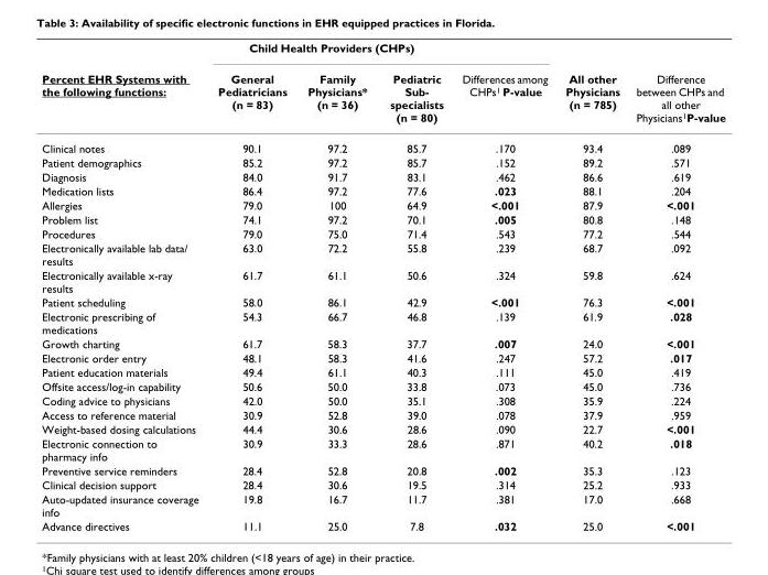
<table><thead><tr><td rowspan="2">Percent EHR Systems with the following functions:</td><td colspan="3">Child Health Providers (CHPs)</td><td rowspan="2">Differences among CHPs<sup>1</sup> P-value</td><td rowspan="2">All other Physicians (n = 785)</td><td rowspan="2">Difference between CHPs and all other Physicians<sup>1</sup>P-value</td></tr><tr><td>General Pediatricians (n = 83)</td><td>Family Physicians* (n = 36)</td><td>Pediatric Sub- specialists (n = 80)</td></tr></thead><tbody><tr><td>Clinical notes</td><td>90.1</td><td>97.2</td><td>85.7</td><td>.170</td><td>93.4</td><td>.089</td></tr><tr><td>Patient demographics</td><td>85.2</td><td>97.2</td><td>85.7</td><td>.152</td><td>89.2</td><td>.571</td></tr><tr><td>Diagnosis</td><td>84.0</td><td>91.7</td><td>83.1</td><td>.462</td><td>86.6</td><td>.619</td></tr><tr><td>Medication lists</td><td>86.4</td><td>97.2</td><td>77.6</td><td>.023</td><td>88.1</td><td>.204</td></tr><tr><td>Allergies</td><td>79.0</td><td>100</td><td>64.9</td><td>&lt;.001</td><td>87.9</td><td>&lt;.001</td></tr><tr><td>Problem list</td><td>74.1</td><td>97.2</td><td>70.1</td><td>.005</td><td>80.8</td><td>.148</td></tr><tr><td>Procedures</td><td>79.0</td><td>75.0</td><td>71.4</td><td>.543</td><td>77.2</td><td>.544</td></tr><tr><td>Electronically available lab data/ results</td><td>63.0</td><td>72.2</td><td>55.8</td><td>.239</td><td>68.7</td><td>.092</td></tr><tr><td>Electronically available x-ray results</td><td>61.7</td><td>61.1</td><td>50.6</td><td>.324</td><td>59.8</td><td>.624</td></tr><tr><td>Patient scheduling</td><td>58.0</td><td>86.1</td><td>42.9</td><td>&lt;.001</td><td>76.3</td><td>&lt;.001</td></tr><tr><td>Electronic prescribing of medications</td><td>54.3</td><td>66.7</td><td>46.8</td><td>.139</td><td>61.9</td><td>.028</td></tr><tr><td>Growth charting</td><td>61.7</td><td>58.3</td><td>37.7</td><td>.007</td><td>24.0</td><td>&lt;.001</td></tr><tr><td>Electronic order entry</td><td>48.1</td><td>58.3</td><td>41.6</td><td>.247</td><td>57.2</td><td>.017</td></tr><tr><td>Patient education materials</td><td>49.4</td><td>61.1</td><td>40.3</td><td>.111</td><td>45.0</td><td>.419</td></tr><tr><td>Offsite access/log-in capability</td><td>50.6</td><td>50.0</td><td>33.8</td><td>.073</td><td>45.0</td><td>.736</td></tr><tr><td>Coding advice to physicians</td><td>42.0</td><td>50.0</td><td>35.1</td><td>.308</td><td>35.9</td><td>.224</td></tr><tr><td>Access to reference material</td><td>30.9</td><td>52.8</td><td>39.0</td><td>.078</td><td>37.9</td><td>.959</td></tr><tr><td>Weight-based dosing calculations</td><td>44.4</td><td>30.6</td><td>28.6</td><td>.090</td><td>22.7</td><td>&lt;.001</td></tr><tr><td>Electronic connection to pharmacy info</td><td>30.9</td><td>33.3</td><td>28.6</td><td>.871</td><td>40.2</td><td>.018</td></tr><tr><td>Preventive service reminders</td><td>28.4</td><td>52.8</td><td>20.8</td><td>.002</td><td>35.3</td><td>.123</td></tr><tr><td>Clinical decision support</td><td>28.4</td><td>30.6</td><td>19.5</td><td>.314</td><td>25.2</td><td>.933</td></tr><tr><td>Auto-updated insurance coverage info</td><td>19.8</td><td>16.7</td><td>11.7</td><td>.381</td><td>17.0</td><td>.668</td></tr><tr><td>Advance directives</td><td>11.1</td><td>25.0</td><td>7.8</td><td>.032</td><td>25.0</td><td>&lt;.001</td></tr></tbody></table>